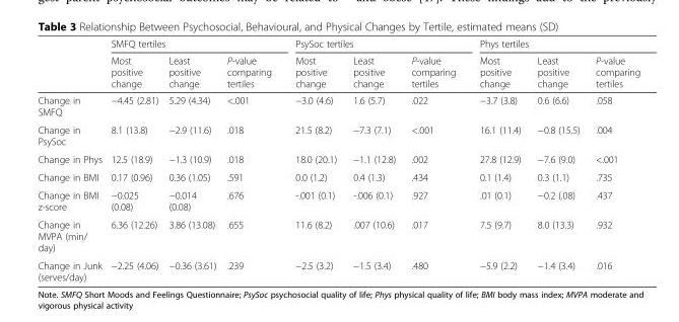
<table><thead><tr><td rowspan="2"></td><td colspan="3">SMFQ tertiles</td><td colspan="3">PsySoc tertiles</td><td colspan="3">Phys tertiles</td></tr><tr><td>Most positive change</td><td>Least positive change</td><td>P-value comparing tertiles</td><td>Most positive change</td><td>Least positive change</td><td>P-value comparing tertiles</td><td>Most positive change</td><td>Least positive change</td><td>P-value comparing tertiles</td></tr></thead><tbody><tr><td>Change in SMFQ</td><td>−4.45 (2.81)</td><td>5.29 (4.34)</td><td>&lt;.001</td><td>−3.0 (4.6)</td><td>1.6 (5.7)</td><td>.022</td><td>−3.7 (3.8)</td><td>0.6 (6.6)</td><td>.058</td></tr><tr><td>Change in PsySoc</td><td>8.1 (13.8)</td><td>−2.9 (11.6)</td><td>.018</td><td>21.5 (8.2)</td><td>−7.3 (7.1)</td><td>&lt;.001</td><td>16.1 (11.4)</td><td>−0.8 (15.5)</td><td>.004</td></tr><tr><td>Change in Phys</td><td>12.5 (18.9)</td><td>−1.3 (10.9)</td><td>.018</td><td>18.0 (20.1)</td><td>−1.1 (12.8)</td><td>.002</td><td>27.8 (12.9)</td><td>−7.6 (9.0)</td><td>&lt;.001</td></tr><tr><td>Change in BMI</td><td>0.17 (0.96)</td><td>0.36 (1.05)</td><td>.591</td><td>0.0 (1.2)</td><td>0.4 (1.3)</td><td>.434</td><td>0.1 (1.4)</td><td>0.3 (1.1)</td><td>.735</td></tr><tr><td>Change in BMI z-score</td><td>−0.025 (0.08)</td><td>−0.014 (0.08)</td><td>.676</td><td>-.001 (0.1)</td><td>-.006 (0.1)</td><td>.927</td><td>.01 (0.1)</td><td>−0.2 (.08)</td><td>.437</td></tr><tr><td>Change in MVPA (min/ day)</td><td>6.36 (12.26)</td><td>3.86 (13.08)</td><td>.655</td><td>11.6 (8.2)</td><td>.007 (10.6)</td><td>.017</td><td>7.5 (9.7)</td><td>8.0 (13.3)</td><td>.932</td></tr><tr><td>Change in Junk (serves/day)</td><td>−2.25 (4.06)</td><td>−0.36 (3.61)</td><td>.239</td><td>−2.5 (3.2)</td><td>−1.5 (3.4)</td><td>.480</td><td>−5.9 (2.2)</td><td>−1.4 (3.4)</td><td>.016</td></tr></tbody></table>